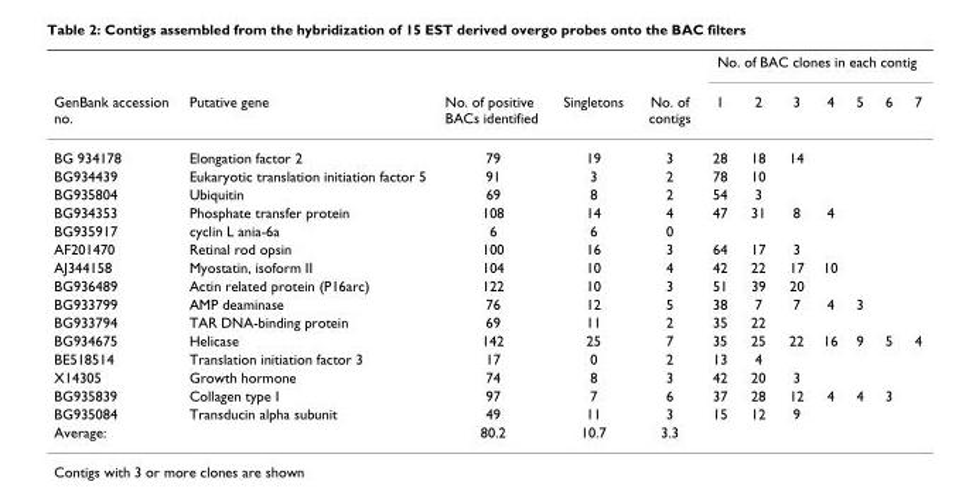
<table><thead><tr><td rowspan="2">GenBank accession no.</td><td rowspan="2">Putative gene</td><td rowspan="2">No. of positive BACs identified</td><td rowspan="2">Singletons</td><td rowspan="2">No. of contigs</td><td colspan="7">No. of BAC clones in each contig</td></tr><tr><td>1</td><td>2</td><td>3</td><td>4</td><td>5</td><td>6</td><td>7</td></tr></thead><tbody><tr><td>BG 934178</td><td>Elongation factor 2</td><td>79</td><td>19</td><td>3</td><td>28</td><td>18</td><td>14</td><td></td><td></td><td></td><td></td></tr><tr><td>BG934439</td><td>Eukaryotic translation initiation factor 5</td><td>91</td><td>3</td><td>2</td><td>78</td><td>10</td><td></td><td></td><td></td><td></td><td></td></tr><tr><td>BG935804</td><td>Ubiquitin</td><td>69</td><td>8</td><td>2</td><td>54</td><td>3</td><td></td><td></td><td></td><td></td><td></td></tr><tr><td>BG934353</td><td>Phosphate transfer protein</td><td>108</td><td>14</td><td>4</td><td>47</td><td>31</td><td>8</td><td>4</td><td></td><td></td><td></td></tr><tr><td>BG935917</td><td>cyclin L ania-6a</td><td>6</td><td>6</td><td>0</td><td></td><td></td><td></td><td></td><td></td><td></td><td></td></tr><tr><td>AF201470</td><td>Retinal rod opsin</td><td>100</td><td>16</td><td>3</td><td>64</td><td>17</td><td>3</td><td></td><td></td><td></td><td></td></tr><tr><td>AJ344158</td><td>Myostatin, isoform II</td><td>104</td><td>10</td><td>4</td><td>42</td><td>22</td><td>17</td><td>10</td><td></td><td></td><td></td></tr><tr><td>BG936489</td><td>Actin related protein (P16arc)</td><td>122</td><td>10</td><td>3</td><td>51</td><td>39</td><td>20</td><td></td><td></td><td></td><td></td></tr><tr><td>BG933799</td><td>AMP deaminase</td><td>76</td><td>12</td><td>5</td><td>38</td><td>7</td><td>7</td><td>4</td><td>3</td><td></td><td></td></tr><tr><td>BG933794</td><td>TAR DNA-binding protein</td><td>69</td><td>11</td><td>2</td><td>35</td><td>22</td><td></td><td></td><td></td><td></td><td></td></tr><tr><td>BG934675</td><td>Helicase</td><td>142</td><td>25</td><td>7</td><td>35</td><td>25</td><td>22</td><td>16</td><td>9</td><td>5</td><td>4</td></tr><tr><td>BE518514</td><td>Translation initiation factor 3</td><td>17</td><td>0</td><td>2</td><td>13</td><td>4</td><td></td><td></td><td></td><td></td><td></td></tr><tr><td>X14305</td><td>Growth hormone</td><td>74</td><td>8</td><td>3</td><td>42</td><td>20</td><td>3</td><td></td><td></td><td></td><td></td></tr><tr><td>BG935839</td><td>Collagen type I</td><td>97</td><td>7</td><td>6</td><td>37</td><td>28</td><td>12</td><td>4</td><td>4</td><td>3</td><td></td></tr><tr><td>BG935084</td><td>Transducin alpha subunit</td><td>49</td><td>11</td><td>3</td><td>15</td><td>12</td><td>9</td><td></td><td></td><td></td><td></td></tr><tr><td>Average:</td><td></td><td>80.2</td><td>10.7</td><td>3.3</td><td></td><td></td><td></td><td></td><td></td><td></td><td></td></tr></tbody></table>